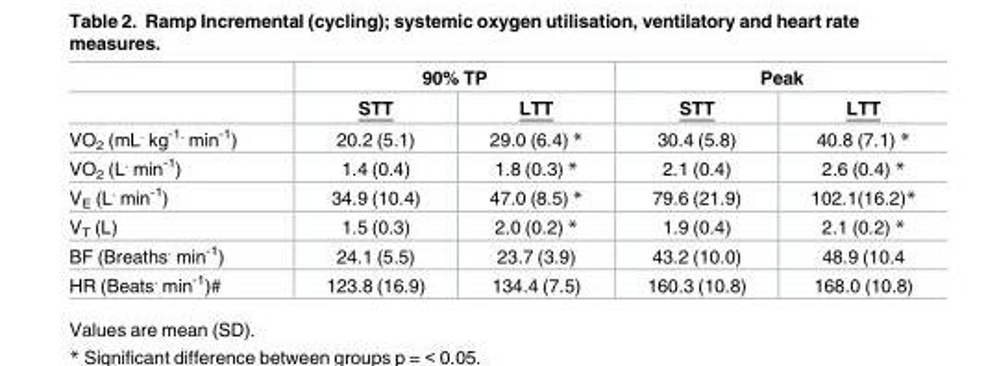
<table><thead><tr><td rowspan="2"></td><td colspan="2">90% TP</td><td colspan="2">Peak</td></tr><tr><td>STT</td><td>LTT</td><td>STT</td><td>LTT</td></tr></thead><tbody><tr><td>VO<sub>2</sub> (mL<sup>.</sup> kg<sup>-1.</sup> min<sup>-1</sup>)</td><td>20.2 (5.1)</td><td>29.0 (6.4) *</td><td>30.4 (5.8)</td><td>40.8 (7.1) *</td></tr><tr><td>VO<sub>2</sub> (L<sup>.</sup> min<sup>-1</sup>)</td><td>1.4 (0.4)</td><td>1.8 (0.3) *</td><td>2.1 (0.4)</td><td>2.6 (0.4) *</td></tr><tr><td>V<sub>E</sub> (L<sup>.</sup> min<sup>-1</sup>)</td><td>34.9 (10.4)</td><td>47.0 (8.5) *</td><td>79.6 (21.9)</td><td>102.1(16.2)*</td></tr><tr><td>V<sub>T</sub> (L)</td><td>1.5 (0.3)</td><td>2.0 (0.2) *</td><td>1.9 (0.4)</td><td>2.1 (0.2) *</td></tr><tr><td>BF (Breaths<sup>.</sup> min<sup>-1</sup>)</td><td>24.1 (5.5)</td><td>23.7 (3.9)</td><td>43.2 (10.0)</td><td>48.9 (10.4</td></tr><tr><td>HR (Beats<sup>.</sup> min<sup>-1</sup>)#</td><td>123.8 (16.9)</td><td>134.4 (7.5)</td><td>160.3 (10.8)</td><td>168.0 (10.8)</td></tr></tbody></table>